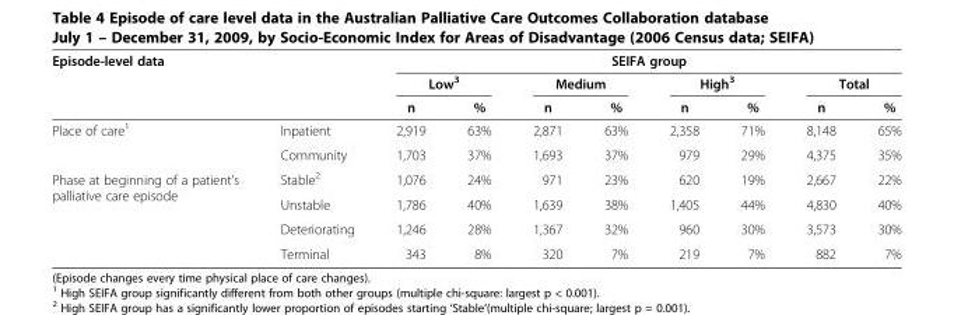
<table><thead><tr><td rowspan="3">Episode-level data</td><td rowspan="3"></td><td colspan="8">SEIFA group</td></tr><tr><td colspan="2">Low<sup>3</sup></td><td colspan="2">Medium</td><td colspan="2">High<sup>3</sup></td><td colspan="2">Total</td></tr><tr><td>n</td><td>%</td><td>n</td><td>%</td><td>n</td><td>%</td><td>n</td><td>%</td></tr></thead><tbody><tr><td rowspan="2">Place of care<sup>1</sup></td><td>Inpatient</td><td>2,919</td><td>63%</td><td>2,871</td><td>63%</td><td>2,358</td><td>71%</td><td>8,148</td><td>65%</td></tr><tr><td>Community</td><td>1,703</td><td>37%</td><td>1,693</td><td>37%</td><td>979</td><td>29%</td><td>4,375</td><td>35%</td></tr><tr><td rowspan="4">Phase at beginning of a patient’s palliative care episode</td><td>Stable<sup>2</sup></td><td>1,076</td><td>24%</td><td>971</td><td>23%</td><td>620</td><td>19%</td><td>2,667</td><td>22%</td></tr><tr><td>Unstable</td><td>1,786</td><td>40%</td><td>1,639</td><td>38%</td><td>1,405</td><td>44%</td><td>4,830</td><td>40%</td></tr><tr><td>Deteriorating</td><td>1,246</td><td>28%</td><td>1,367</td><td>32%</td><td>960</td><td>30%</td><td>3,573</td><td>30%</td></tr><tr><td>Terminal</td><td>343</td><td>8%</td><td>320</td><td>7%</td><td>219</td><td>7%</td><td>882</td><td>7%</td></tr></tbody></table>